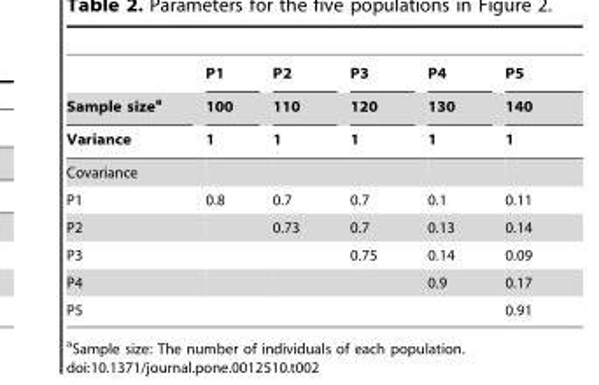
<table><thead><tr><td rowspan="3">Sample size<sup>a</sup> Variance</td><td rowspan="3">P1 100 1</td><td rowspan="3">P2 110 1</td><td rowspan="3">P3 120 1</td><td rowspan="3">P4 130 1</td><td rowspan="3">P5 140 1</td></tr><tr></tr><tr></tr></thead><tbody><tr><td colspan="6">Covariance</td></tr><tr><td>P1</td><td>0.8</td><td>0.7</td><td>0.7</td><td>0.1</td><td>0.11</td></tr><tr><td>P2</td><td></td><td>0.73</td><td>0.7</td><td>0.13</td><td>0.14</td></tr><tr><td>P3</td><td></td><td></td><td>0.75</td><td>0.14</td><td>0.09</td></tr><tr><td>P4</td><td></td><td></td><td></td><td>0.9</td><td>0.17</td></tr><tr><td>P5</td><td></td><td></td><td></td><td></td><td>0.91</td></tr></tbody></table>